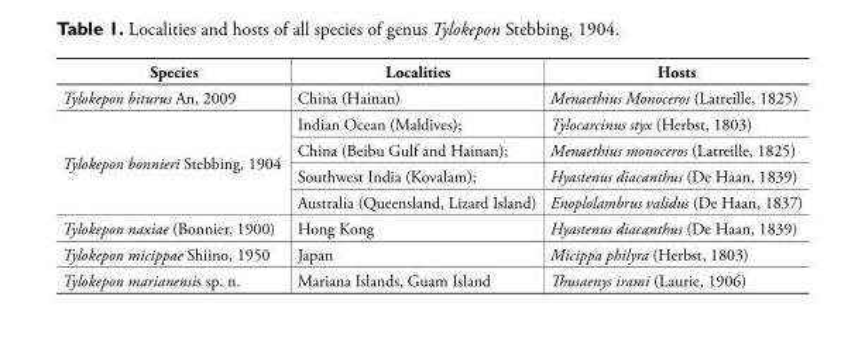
<table><thead><tr><td>Species</td><td>Localities</td><td>Hosts</td></tr></thead><tbody><tr><td>Tylokepon biturus An, 2009</td><td>China (Hainan)</td><td>Menaethius Monoceros (Latreille, 1825)</td></tr><tr><td rowspan="4">Tylokepon bonnieri Stebbing, 1904</td><td>Indian Ocean (Maldives);</td><td>Tylocarcinus styx (Herbst, 1803)</td></tr><tr><td>China (Beibu Gulf and Hainan);</td><td>Menaethius monoceros (Latreille, 1825)</td></tr><tr><td>Southwest India (Kovalam);</td><td>Hyastenus diacanthus (De Haan, 1839)</td></tr><tr><td>Australia (Queensland, Lizard Island)</td><td>Enoplolambrus validus (De Haan, 1837)</td></tr><tr><td>Tylokepon naxiae (Bonnier, 1900)</td><td>Hong Kong</td><td>Hyastenus diacanthus (De Haan, 1839)</td></tr><tr><td>Tylokepon micippae Shiino, 1950</td><td>Japan</td><td>Micippa philyra (Herbst, 1803)</td></tr><tr><td>Tylokepon marianensis sp. n.</td><td>Mariana Islands, Guam Island</td><td>Thusaenys irami (Laurie, 1906)</td></tr></tbody></table>